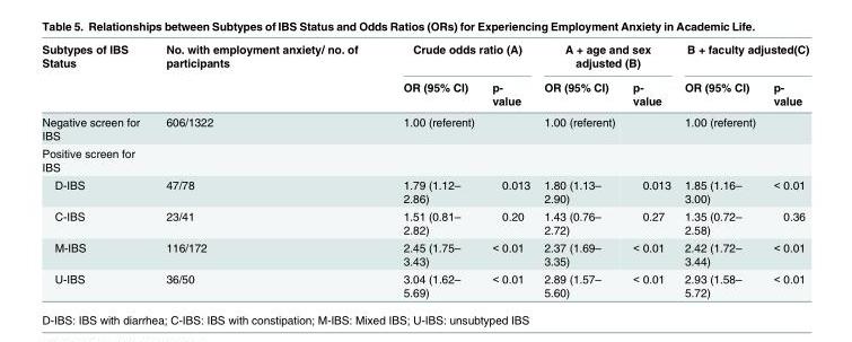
<table><thead><tr><td rowspan="2">Subtypes of IBS Status</td><td rowspan="2">No. with employment anxiety/ no. of participants</td><td colspan="2">Crude odds ratio (A)</td><td colspan="2">A + age and sex adjusted (B)</td><td colspan="2">B + faculty adjusted(C)</td></tr><tr><td>OR (95% CI)</td><td>p- value</td><td>OR (95% CI)</td><td>p- value</td><td>OR (95% CI)</td><td>p- value</td></tr></thead><tbody><tr><td>Negative screen for IBS</td><td>606/1322</td><td>1.00 (referent)</td><td></td><td>1.00 (referent)</td><td></td><td>1.00 (referent)</td><td></td></tr><tr><td colspan="8">Positive screen for IBS</td></tr><tr><td>D-IBS</td><td>47/78</td><td>1.79 (1.12– 2.86)</td><td>0.013</td><td>1.80 (1.13– 2.90)</td><td>0.013</td><td>1.85 (1.16– 3.00)</td><td>&lt; 0.01</td></tr><tr><td>C-IBS</td><td>23/41</td><td>1.51 (0.81– 2.82)</td><td>0.20</td><td>1.43 (0.76– 2.72)</td><td>0.27</td><td>1.35 (0.72– 2.58)</td><td>0.36</td></tr><tr><td>M-IBS</td><td>116/172</td><td>2.45 (1.75– 3.43)</td><td>&lt; 0.01</td><td>2.37 (1.69– 3.35)</td><td>&lt; 0.01</td><td>2.42 (1.72– 3.44)</td><td>&lt; 0.01</td></tr><tr><td>U-IBS</td><td>36/50</td><td>3.04 (1.62– 5.69)</td><td>&lt; 0.01</td><td>2.89 (1.57– 5.60)</td><td>&lt; 0.01</td><td>2.93 (1.58– 5.72)</td><td>&lt; 0.01</td></tr></tbody></table>